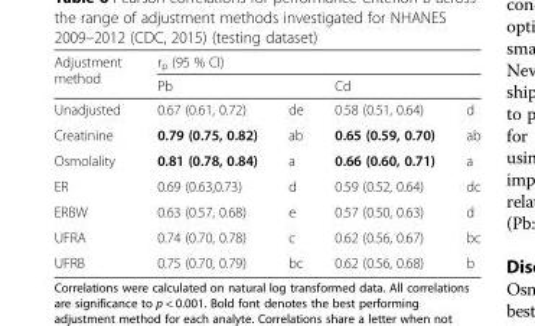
<table><thead><tr><td rowspan="3">Adjustment method Unadjusted</td><td colspan="4">r<sub>p</sub> (95 % CI)</td></tr><tr><td colspan="2">Pb</td><td colspan="2">Cd</td></tr><tr><td>0.67 (0.61, 0.72)</td><td>de</td><td>0.58 (0.51, 0.64)</td><td>d</td></tr></thead><tbody><tr><td>Creatinine</td><td>0.79 (0.75, 0.82)</td><td>ab</td><td>0.65 (0.59, 0.70)</td><td>ab</td></tr><tr><td>Osmolality</td><td>0.81 (0.78, 0.84)</td><td>a</td><td>0.66 (0.60, 0.71)</td><td>a</td></tr><tr><td>ER</td><td>0.69 (0.63,0.73)</td><td>d</td><td>0.59 (0.52, 0.64)</td><td>dc</td></tr><tr><td>ERBW</td><td>0.63 (0.57, 0.68)</td><td>e</td><td>0.57 (0.50, 0.63)</td><td>d</td></tr><tr><td>UFRA</td><td>0.74 (0.70, 0.78)</td><td>c</td><td>0.62 (0.56, 0.67)</td><td>bc</td></tr><tr><td>UFRB</td><td>0.75 (0.70, 0.79)</td><td>bc</td><td>0.62 (0.56, 0.68)</td><td>b</td></tr></tbody></table>